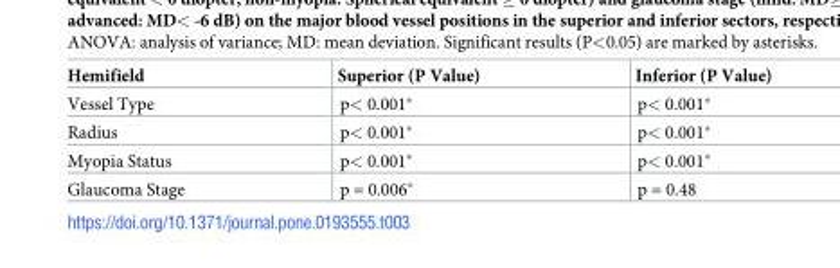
<table><thead><tr><td>Hemifield</td><td>Superior (P Value)</td><td>Inferior (P Value)</td></tr></thead><tbody><tr><td>Vessel Type</td><td>p&lt; 0.001*</td><td>p&lt; 0.001*</td></tr><tr><td>Radius</td><td>p&lt; 0.001*</td><td>p&lt; 0.001*</td></tr><tr><td>Myopia Status</td><td>p&lt; 0.001*</td><td>p&lt; 0.001*</td></tr><tr><td>Glaucoma Stage</td><td>p = 0.006*</td><td>p = 0.48</td></tr></tbody></table>